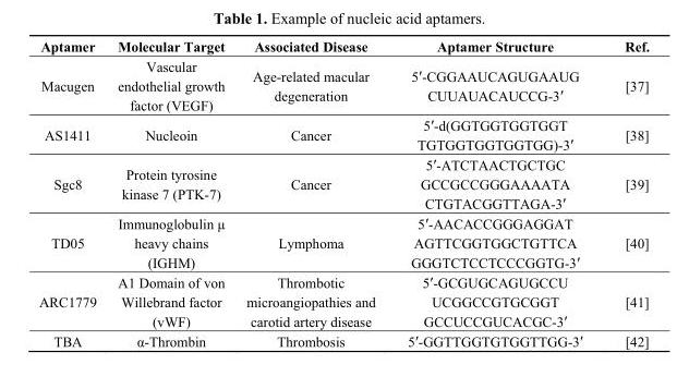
<table><thead><tr><td>Aptamer</td><td>Molecular Target</td><td>Associated Disease</td><td>Aptamer Structure</td><td>Ref.</td></tr></thead><tbody><tr><td>Macugen</td><td>Vascular endothelial growth factor (VEGF)</td><td>Age-related macular degeneration</td><td>5′-CGGAAUCAGUGAAUG CUUAUACAUCCG-3′</td><td>[37]</td></tr><tr><td>AS1411</td><td>Nucleoin</td><td>Cancer</td><td>5′-d(GGTGGTGGTGGT TGTGGTGGTGGTGG)-3′</td><td>[38]</td></tr><tr><td>Sgc8</td><td>Protein tyrosine kinase 7 (PTK-7)</td><td>Cancer</td><td>5′-ATCTAACTGCTGC GCCGCCGGGAAAATA CTGTACGGTTAGA-3′</td><td>[39]</td></tr><tr><td>TD05</td><td>Immunoglobulin μ heavy chains (IGHM)</td><td>Lymphoma</td><td>5′-AACACCGGGAGGAT AGTTCGGTGGCTGTTCA GGGTCTCCTCCCGGTG-3′</td><td>[40]</td></tr><tr><td>ARC1779</td><td>A1 Domain of von Willebrand factor (vWF)</td><td>Thrombotic microangiopathies and carotid artery disease</td><td>5′-GCGUGCAGUGCCU UCGGCCGTGCGGT GCCUCCGUCACGC-3′</td><td>[41]</td></tr><tr><td>TBA</td><td>α-Thrombin</td><td>Thrombosis</td><td>5′-GGTTGGTGTGGTTGG-3′</td><td>[42]</td></tr></tbody></table>